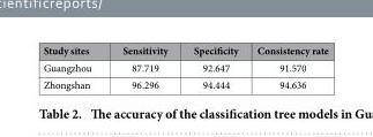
<table><thead><tr><td>Study sites</td><td>Sensitivity</td><td>Specificity</td><td>Consistency rate</td></tr></thead><tbody><tr><td>Guangzhou</td><td>87.719</td><td>92.647</td><td>91.570</td></tr><tr><td>Zhongshan</td><td>96.296</td><td>94.444</td><td>94.636</td></tr></tbody></table>